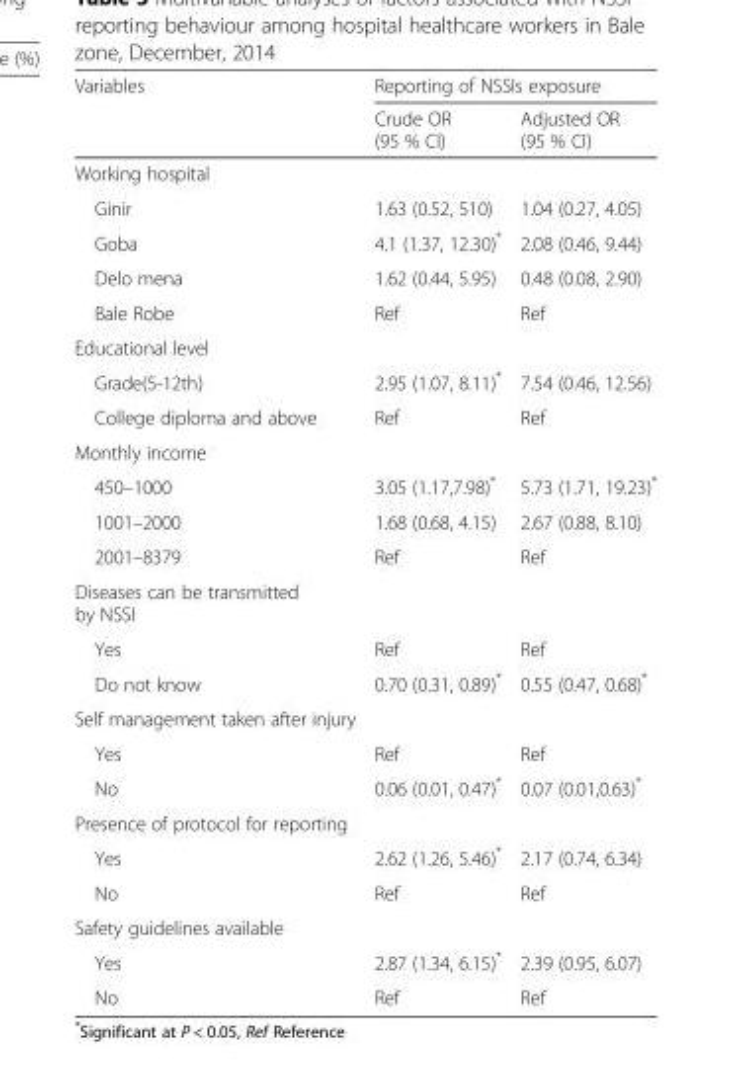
<table><thead><tr><td rowspan="2">Variables</td><td colspan="2">Reporting of NSSIs exposure</td></tr><tr><td>Crude OR (95 % CI)</td><td>Adjusted OR (95 % CI)</td></tr></thead><tbody><tr><td colspan="3">Working hospital</td></tr><tr><td>Ginir</td><td>1.63 (0.52, 510)</td><td>1.04 (0.27, 4.05)</td></tr><tr><td>Goba</td><td>4.1 (1.37, 12.30)*</td><td>2.08 (0.46, 9.44)</td></tr><tr><td>Delo mena</td><td>1.62 (0.44, 5.95)</td><td>0.48 (0.08, 2.90)</td></tr><tr><td>Bale Robe</td><td>Ref</td><td>Ref</td></tr><tr><td colspan="3">Educational level</td></tr><tr><td>Grade(5-12th)</td><td>2.95 (1.07, 8.11)*</td><td>7.54 (0.46, 12.56)</td></tr><tr><td>College diploma and above</td><td>Ref</td><td>Ref</td></tr><tr><td colspan="3">Monthly income</td></tr><tr><td>450–1000</td><td>3.05 (1.17,7.98)*</td><td>5.73 (1.71, 19.23)*</td></tr><tr><td>1001–2000</td><td>1.68 (0.68, 4.15)</td><td>2.67 (0.88, 8.10)</td></tr><tr><td>2001–8379</td><td>Ref</td><td>Ref</td></tr><tr><td colspan="3">Diseases can be transmitted by NSSI</td></tr><tr><td>Yes</td><td>Ref</td><td>Ref</td></tr><tr><td>Do not know</td><td>0.70 (0.31, 0.89)*</td><td>0.55 (0.47, 0.68)*</td></tr><tr><td colspan="3">Self management taken after injury</td></tr><tr><td>Yes</td><td>Ref</td><td>Ref</td></tr><tr><td>No</td><td>0.06 (0.01, 0.47)*</td><td>0.07 (0.01,0.63)*</td></tr><tr><td colspan="3">Presence of protocol for reporting</td></tr><tr><td>Yes</td><td>2.62 (1.26, 5.46)*</td><td>2.17 (0.74, 6.34)</td></tr><tr><td>No</td><td>Ref</td><td>Ref</td></tr><tr><td colspan="3">Safety guidelines available</td></tr><tr><td>Yes</td><td>2.87 (1.34, 6.15)*</td><td>2.39 (0.95, 6.07)</td></tr><tr><td>No</td><td>Ref</td><td>Ref</td></tr></tbody></table>